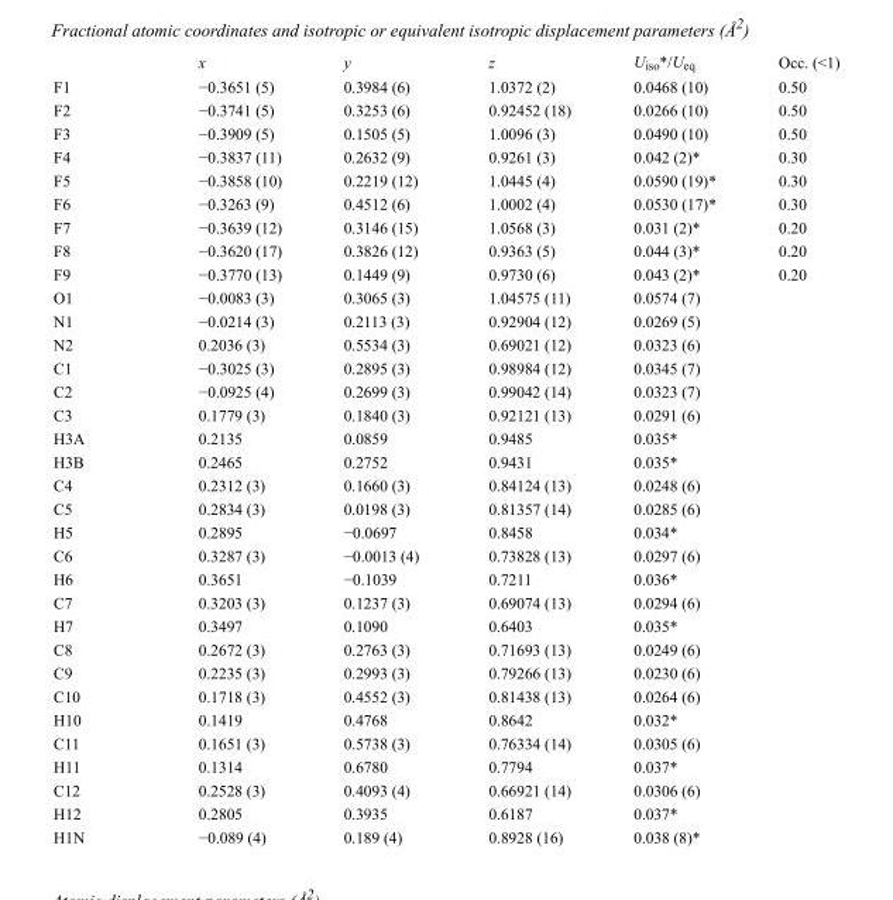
<table><thead><tr><td></td><td>x</td><td>y</td><td>z</td><td>U<sub>iso</sub>*/U<sub>eq</sub></td><td>Occ. (&lt;1)</td></tr></thead><tbody><tr><td>F1</td><td>−0.3651 (5)</td><td>0.3984 (6)</td><td>1.0372 (2)</td><td>0.0468 (10)</td><td>0.50</td></tr><tr><td>F2</td><td>−0.3741 (5)</td><td>0.3253 (6)</td><td>0.92452 (18)</td><td>0.0266 (10)</td><td>0.50</td></tr><tr><td>F3</td><td>−0.3909 (5)</td><td>0.1505 (5)</td><td>1.0096 (3)</td><td>0.0490 (10)</td><td>0.50</td></tr><tr><td>F4</td><td>−0.3837 (11)</td><td>0.2632 (9)</td><td>0.9261 (3)</td><td>0.042 (2)*</td><td>0.30</td></tr><tr><td>F5</td><td>−0.3858 (10)</td><td>0.2219 (12)</td><td>1.0445 (4)</td><td>0.0590 (19)*</td><td>0.30</td></tr><tr><td>F6</td><td>−0.3263 (9)</td><td>0.4512 (6)</td><td>1.0002 (4)</td><td>0.0530 (17)*</td><td>0.30</td></tr><tr><td>F7</td><td>−0.3639 (12)</td><td>0.3146 (15)</td><td>1.0568 (3)</td><td>0.031 (2)*</td><td>0.20</td></tr><tr><td>F8</td><td>−0.3620 (17)</td><td>0.3826 (12)</td><td>0.9363 (5)</td><td>0.044 (3)*</td><td>0.20</td></tr><tr><td>F9</td><td>−0.3770 (13)</td><td>0.1449 (9)</td><td>0.9730 (6)</td><td>0.043 (2)*</td><td>0.20</td></tr><tr><td>O1</td><td>−0.0083 (3)</td><td>0.3065 (3)</td><td>1.04575 (11)</td><td>0.0574 (7)</td><td></td></tr><tr><td>N1</td><td>−0.0214 (3)</td><td>0.2113 (3)</td><td>0.92904 (12)</td><td>0.0269 (5)</td><td></td></tr><tr><td>N2</td><td>0.2036 (3)</td><td>0.5534 (3)</td><td>0.69021 (12)</td><td>0.0323 (6)</td><td></td></tr><tr><td>C1</td><td>−0.3025 (3)</td><td>0.2895 (3)</td><td>0.98984 (12)</td><td>0.0345 (7)</td><td></td></tr><tr><td>C2</td><td>−0.0925 (4)</td><td>0.2699 (3)</td><td>0.99042 (14)</td><td>0.0323 (7)</td><td></td></tr><tr><td>C3</td><td>0.1779 (3)</td><td>0.1840 (3)</td><td>0.92121 (13)</td><td>0.0291 (6)</td><td></td></tr><tr><td>H3A</td><td>0.2135</td><td>0.0859</td><td>0.9485</td><td>0.035*</td><td></td></tr><tr><td>H3B</td><td>0.2465</td><td>0.2752</td><td>0.9431</td><td>0.035*</td><td></td></tr><tr><td>C4</td><td>0.2312 (3)</td><td>0.1660 (3)</td><td>0.84124 (13)</td><td>0.0248 (6)</td><td></td></tr><tr><td>C5</td><td>0.2834 (3)</td><td>0.0198 (3)</td><td>0.81357 (14)</td><td>0.0285 (6)</td><td></td></tr><tr><td>H5</td><td>0.2895</td><td>−0.0697</td><td>0.8458</td><td>0.034*</td><td></td></tr><tr><td>C6</td><td>0.3287 (3)</td><td>−0.0013 (4)</td><td>0.73828 (13)</td><td>0.0297 (6)</td><td></td></tr><tr><td>H6</td><td>0.3651</td><td>−0.1039</td><td>0.7211</td><td>0.036*</td><td></td></tr><tr><td>C7</td><td>0.3203 (3)</td><td>0.1237 (3)</td><td>0.69074 (13)</td><td>0.0294 (6)</td><td></td></tr><tr><td>H7</td><td>0.3497</td><td>0.1090</td><td>0.6403</td><td>0.035*</td><td></td></tr><tr><td>C8</td><td>0.2672 (3)</td><td>0.2763 (3)</td><td>0.71693 (13)</td><td>0.0249 (6)</td><td></td></tr><tr><td>C9</td><td>0.2235 (3)</td><td>0.2993 (3)</td><td>0.79266 (13)</td><td>0.0230 (6)</td><td></td></tr><tr><td>C10</td><td>0.1718 (3)</td><td>0.4552 (3)</td><td>0.81438 (13)</td><td>0.0264 (6)</td><td></td></tr><tr><td>H10</td><td>0.1419</td><td>0.4768</td><td>0.8642</td><td>0.032*</td><td></td></tr><tr><td>C11</td><td>0.1651 (3)</td><td>0.5738 (3)</td><td>0.76334 (14)</td><td>0.0305 (6)</td><td></td></tr><tr><td>H11</td><td>0.1314</td><td>0.6780</td><td>0.7794</td><td>0.037*</td><td></td></tr><tr><td>C12</td><td>0.2528 (3)</td><td>0.4093 (4)</td><td>0.66921 (14)</td><td>0.0306 (6)</td><td></td></tr><tr><td>H12</td><td>0.2805</td><td>0.3935</td><td>0.6187</td><td>0.037*</td><td></td></tr><tr><td>H1N</td><td>−0.089 (4)</td><td>0.189 (4)</td><td>0.8928 (16)</td><td>0.038 (8)*</td><td></td></tr></tbody></table>